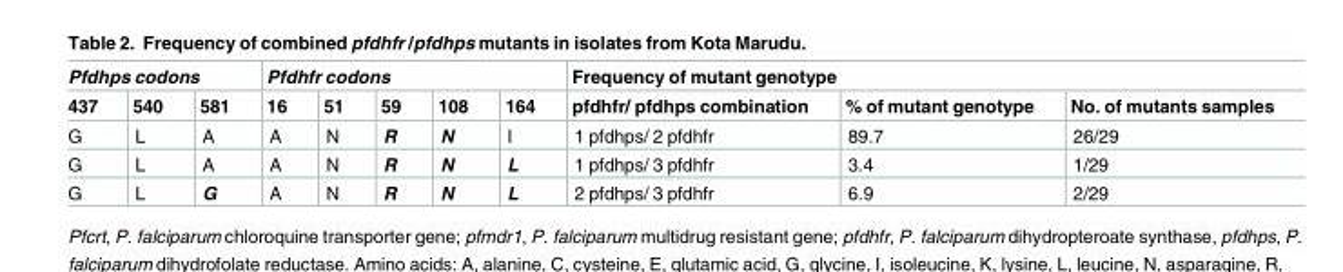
<table><thead><tr><td colspan="3">Pfdhps codons</td><td colspan="5">Pfdhfr codons</td><td colspan="3">Frequency of mutant genotype</td></tr><tr><td>437</td><td>540</td><td>581</td><td>16</td><td>51</td><td>59</td><td>108</td><td>164</td><td>pfdhfr/ pfdhps combination</td><td>% of mutant genotype</td><td>No. of mutants samples</td></tr></thead><tbody><tr><td>G</td><td>L</td><td>A</td><td>A</td><td>N</td><td>R</td><td>N</td><td>I</td><td>1 pfdhps/ 2 pfdhfr</td><td>89.7</td><td>26/29</td></tr><tr><td>G</td><td>L</td><td>A</td><td>A</td><td>N</td><td>R</td><td>N</td><td>L</td><td>1 pfdhps/ 3 pfdhfr</td><td>3.4</td><td>1/29</td></tr><tr><td>G</td><td>L</td><td>G</td><td>A</td><td>N</td><td>R</td><td>N</td><td>L</td><td>2 pfdhps/ 3 pfdhfr</td><td>6.9</td><td>2/29</td></tr></tbody></table>